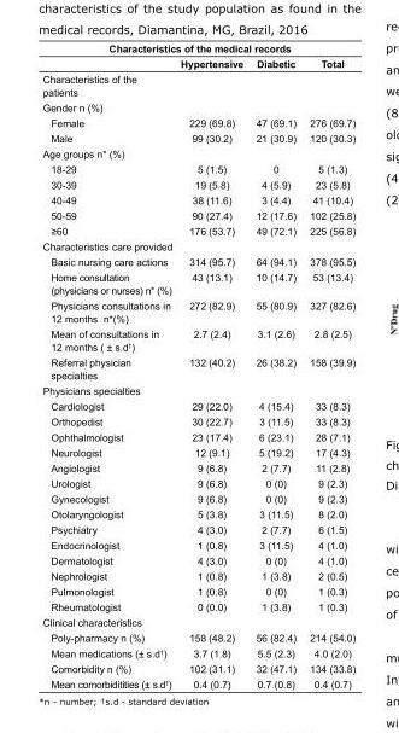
<table><tbody><tr><td colspan="4">Characteristics of the medical records</td></tr><tr><td></td><td>Hypertensive</td><td>Diabetic</td><td>Total</td></tr><tr><td colspan="4">Characteristics of the patients</td></tr><tr><td colspan="4">Gender n (%)</td></tr><tr><td>Female</td><td>229 (69.8)</td><td>47 (69.1)</td><td>276 (69.7)</td></tr><tr><td>Male</td><td>99 (30.2)</td><td>21 (30.9)</td><td>120 (30.3)</td></tr><tr><td colspan="4">Age groups n* (%)</td></tr><tr><td>18-29</td><td>5 (1.5)</td><td>0</td><td>5 (1.3)</td></tr><tr><td>30-39</td><td>19 (5.8)</td><td>4 (5.9)</td><td>23 (5.8)</td></tr><tr><td>40-49</td><td>38 (11.6)</td><td>3 (4.4)</td><td>41 (10.4)</td></tr><tr><td>50-59</td><td>90 (27.4)</td><td>12 (17.6)</td><td>102 (25.8)</td></tr><tr><td>≥60</td><td>176 (53.7)</td><td>49 (72.1)</td><td>225 (56.8)</td></tr><tr><td colspan="4">Characteristics care provided</td></tr><tr><td>Basic nursing care actions</td><td>314 (95.7)</td><td>64 (94.1)</td><td>378 (95.5)</td></tr><tr><td>Home consultation (physicians or nurses) n* (%)</td><td>43 (13.1)</td><td>10 (14.7)</td><td>53 (13.4)</td></tr><tr><td>Physicians consultations in 12 months n*(%)</td><td>272 (82.9)</td><td>55 (80.9)</td><td>327 (82.6)</td></tr><tr><td>Mean of consultations in 12 months ( ± s.d<sup>†</sup>)</td><td>2.7 (2.4)</td><td>3.1 (2.6)</td><td>2.8 (2.5)</td></tr><tr><td>Referral physician specialties</td><td>132 (40.2)</td><td>26 (38.2)</td><td>158 (39.9)</td></tr><tr><td colspan="4">Physicians specialties</td></tr><tr><td>Cardiologist</td><td>29 (22.0)</td><td>4 (15.4)</td><td>33 (8.3)</td></tr><tr><td>Orthopedist</td><td>30 (22.7)</td><td>3 (11.5)</td><td>33 (8.3)</td></tr><tr><td>Ophthalmologist</td><td>23 (17.4)</td><td>6 (23.1)</td><td>28 (7.1)</td></tr><tr><td>Neurologist</td><td>12 (9.1)</td><td>5 (19.2)</td><td>17 (4.3)</td></tr><tr><td>Angiologist</td><td>9 (6.8)</td><td>2 (7.7)</td><td>11 (2.8)</td></tr><tr><td>Urologist</td><td>9 (6.8)</td><td>0 (0)</td><td>9 (2.3)</td></tr><tr><td>Gynecologist</td><td>9 (6.8)</td><td>0 (0)</td><td>9 (2.3)</td></tr><tr><td>Otolaryngologist</td><td>5 (3.8)</td><td>3 (11.5)</td><td>8 (2.0)</td></tr><tr><td>Psychiatry</td><td>4 (3.0)</td><td>2 (7.7)</td><td>6 (1.5)</td></tr><tr><td>Endocrinologist</td><td>1 (0.8)</td><td>3 (11.5)</td><td>4 (1.0)</td></tr><tr><td>Dermatologist</td><td>4 (3.0)</td><td>0 (0)</td><td>4 (1.0)</td></tr><tr><td>Nephrologist</td><td>1 (0.8)</td><td>1 (3.8)</td><td>2 (0.5)</td></tr><tr><td>Pulmonologist</td><td>1 (0.8)</td><td>0 (0)</td><td>1 (0.3)</td></tr><tr><td>Rheumatologist</td><td>0 (0.0)</td><td>1 (3.8)</td><td>1 (0.3)</td></tr><tr><td colspan="4">Clinical characteristics</td></tr><tr><td>Poly-pharmacy n (%)</td><td>158 (48.2)</td><td>56 (82.4)</td><td>214 (54.0)</td></tr><tr><td>Mean medications (± s.d<sup>†</sup>)</td><td>3.7 (1.8)</td><td>5.5 (2.3)</td><td>4.0 (2.0)</td></tr><tr><td>Comorbidity n (%)</td><td>102 (31.1)</td><td>32 (47.1)</td><td>134 (33.8)</td></tr><tr><td>Mean comorbiditities (± s.d<sup>†</sup>)</td><td>0.4 (0.7)</td><td>0.7 (0.8)</td><td>0.4 (0.7)</td></tr></tbody></table>